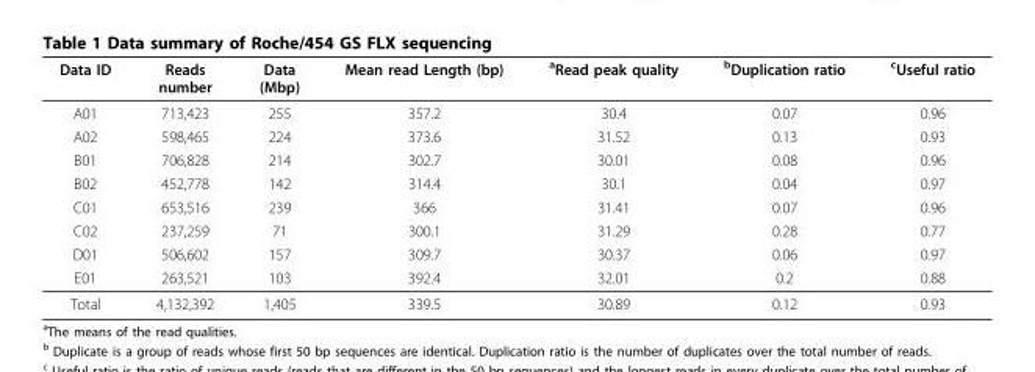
<table><thead><tr><td>Data ID</td><td>Reads number</td><td>Data (Mbp)</td><td>Mean read Length (bp)</td><td><sup>a</sup>Read peak quality</td><td><sup>b</sup>Duplication ratio</td><td><sup>c</sup>Useful ratio</td></tr></thead><tbody><tr><td>A01</td><td>713,423</td><td>255</td><td>357.2</td><td>30.4</td><td>0.07</td><td>0.96</td></tr><tr><td>A02</td><td>598,465</td><td>224</td><td>373.6</td><td>31.52</td><td>0.13</td><td>0.93</td></tr><tr><td>B01</td><td>706,828</td><td>214</td><td>302.7</td><td>30.01</td><td>0.08</td><td>0.96</td></tr><tr><td>B02</td><td>452,778</td><td>142</td><td>314.4</td><td>30.1</td><td>0.04</td><td>0.97</td></tr><tr><td>C01</td><td>653,516</td><td>239</td><td>366</td><td>31.41</td><td>0.07</td><td>0.96</td></tr><tr><td>C02</td><td>237,259</td><td>71</td><td>300.1</td><td>31.29</td><td>0.28</td><td>0.77</td></tr><tr><td>D01</td><td>506,602</td><td>157</td><td>309.7</td><td>30.37</td><td>0.06</td><td>0.97</td></tr><tr><td>E01</td><td>263,521</td><td>103</td><td>392.4</td><td>32.01</td><td>0.2</td><td>0.88</td></tr><tr><td>Total</td><td>4,132,392</td><td>1,405</td><td>339.5</td><td>30.89</td><td>0.12</td><td>0.93</td></tr></tbody></table>